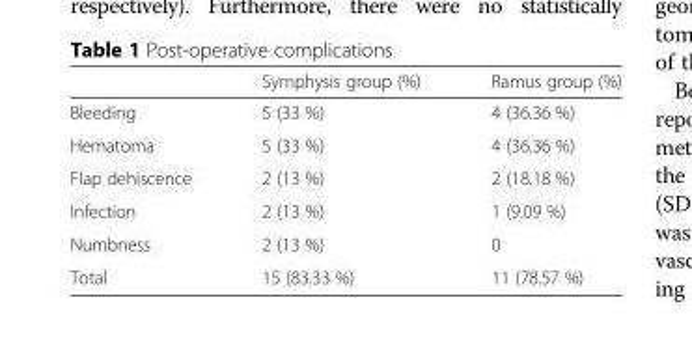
<table><thead><tr><td></td><td>Symphysis group (%)</td><td>Ramus group (%)</td></tr></thead><tbody><tr><td>Bleeding</td><td>5 (33 %)</td><td>4 (36.36 %)</td></tr><tr><td>Hematoma</td><td>5 (33 %)</td><td>4 (36.36 %)</td></tr><tr><td>Flap dehiscence</td><td>2 (13 %)</td><td>2 (18.18 %)</td></tr><tr><td>Infection</td><td>2 (13 %)</td><td>1 (9.09 %)</td></tr><tr><td>Numbness</td><td>2 (13 %)</td><td>0</td></tr><tr><td>Total</td><td>15 (83.33 %)</td><td>11 (78.57 %)</td></tr></tbody></table>